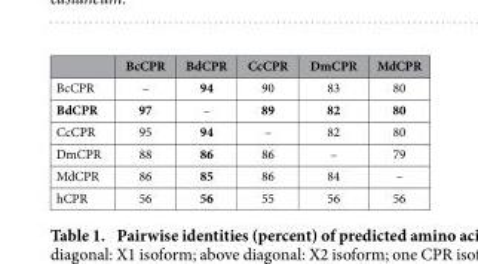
<table><thead><tr><td></td><td>BcCPR</td><td>BdCPR</td><td>CcCPR</td><td>DmCPR</td><td>MdCPR</td></tr></thead><tbody><tr><td>BcCPR</td><td>–</td><td>94</td><td>90</td><td>83</td><td>80</td></tr><tr><td>BdCPR</td><td>97</td><td>–</td><td>89</td><td>82</td><td>80</td></tr><tr><td>CcCPR</td><td>95</td><td>94</td><td>–</td><td>82</td><td>80</td></tr><tr><td>DmCPR</td><td>88</td><td>86</td><td>86</td><td>–</td><td>79</td></tr><tr><td>MdCPR</td><td>86</td><td>85</td><td>86</td><td>84</td><td>–</td></tr><tr><td>hCPR</td><td>56</td><td>56</td><td>55</td><td>56</td><td>56</td></tr></tbody></table>